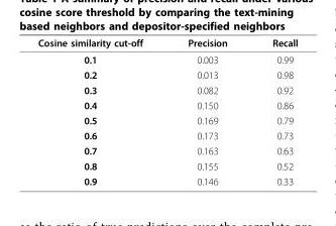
<table><thead><tr><td>Cosine similarity cut-off</td><td>Precision</td><td>Recall</td></tr></thead><tbody><tr><td>0.1</td><td>0.003</td><td>0.99</td></tr><tr><td>0.2</td><td>0.013</td><td>0.98</td></tr><tr><td>0.3</td><td>0.082</td><td>0.92</td></tr><tr><td>0.4</td><td>0.150</td><td>0.86</td></tr><tr><td>0.5</td><td>0.169</td><td>0.79</td></tr><tr><td>0.6</td><td>0.173</td><td>0.73</td></tr><tr><td>0.7</td><td>0.163</td><td>0.63</td></tr><tr><td>0.8</td><td>0.155</td><td>0.52</td></tr><tr><td>0.9</td><td>0.146</td><td>0.33</td></tr></tbody></table>